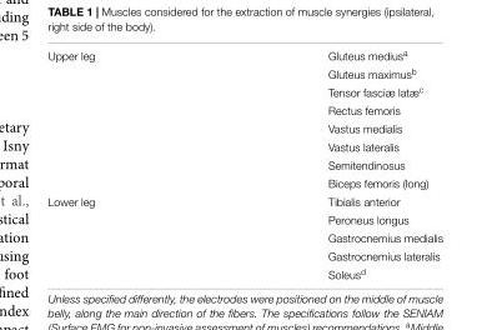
<table><tbody><tr><td rowspan="8">Upper leg</td><td>Gluteus medius<sup>a</sup></td></tr><tr><td>Gluteus maximus<sup>b</sup></td></tr><tr><td>Tensor fasciæ latæ<sup>c</sup></td></tr><tr><td>Rectus femoris</td></tr><tr><td>Vastus medialis</td></tr><tr><td>Vastus lateralis</td></tr><tr><td>Semitendinosus</td></tr><tr><td>Biceps femoris (long)</td></tr><tr><td rowspan="5">Lower leg</td><td>Tibialis anterior</td></tr><tr><td>Peroneus longus</td></tr><tr><td>Gastrocnemius medialis</td></tr><tr><td>Gastrocnemius lateralis</td></tr><tr><td>Soleus<sup>d</sup></td></tr></tbody></table>